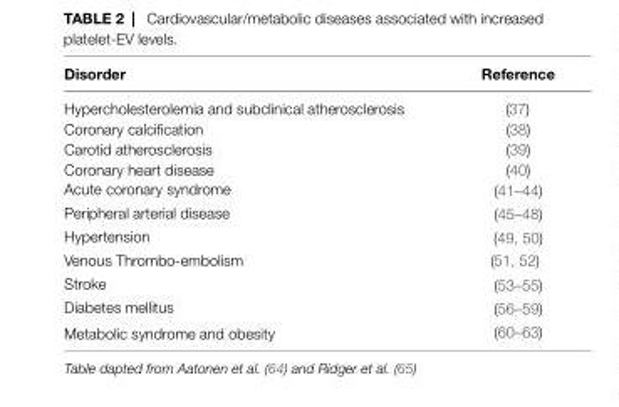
<table><thead><tr><td>Disorder</td><td>Reference</td></tr></thead><tbody><tr><td>Hypercholesterolemia and subclinical atherosclerosis</td><td>(37)</td></tr><tr><td>Coronary calcification</td><td>(38)</td></tr><tr><td>Carotid atherosclerosis</td><td>(39)</td></tr><tr><td>Coronary heart disease</td><td>(40)</td></tr><tr><td>Acute coronary syndrome</td><td>(41–44)</td></tr><tr><td>Peripheral arterial disease</td><td>(45–48)</td></tr><tr><td>Hypertension</td><td>(49, 50)</td></tr><tr><td>Venous Thrombo-embolism</td><td>(51, 52)</td></tr><tr><td>Stroke</td><td>(53–55)</td></tr><tr><td>Diabetes mellitus</td><td>(56–59)</td></tr><tr><td>Metabolic syndrome and obesity</td><td>(60–63)</td></tr></tbody></table>